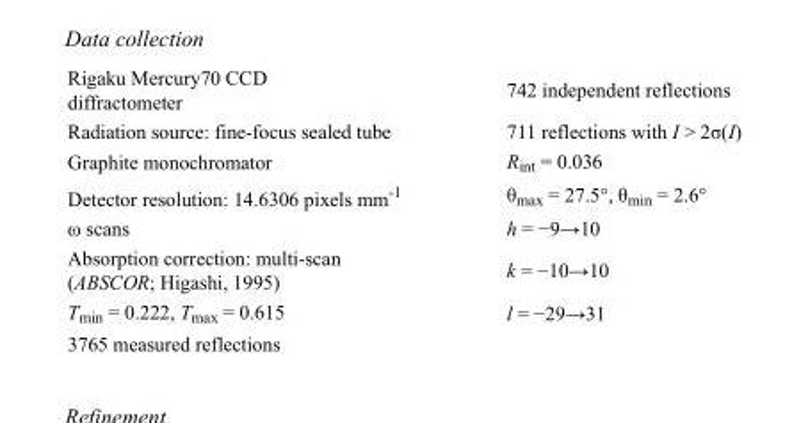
<table><tbody><tr><td>Rigaku Mercury70 CCD diffractometer</td><td>742 independent reflections</td></tr><tr><td>Radiation source: fine-focus sealed tube</td><td>711 reflections with I &gt; 2σ(I)</td></tr><tr><td>Graphite monochromator</td><td>R<sub>int</sub> = 0.036</td></tr><tr><td>Detector resolution: 14.6306 pixels mm<sup>-1</sup></td><td>θ<sub>max</sub> = 27.5°, θ<sub>min</sub> = 2.6°</td></tr><tr><td>ω scans</td><td>h = −9→10</td></tr><tr><td>Absorption correction: multi-scan (ABSCOR; Higashi, 1995)</td><td>k = −10→10</td></tr><tr><td>T<sub>min</sub> = 0.222, T<sub>max</sub> = 0.615</td><td>l = −29→31</td></tr><tr><td>3765 measured reflections</td><td></td></tr></tbody></table>